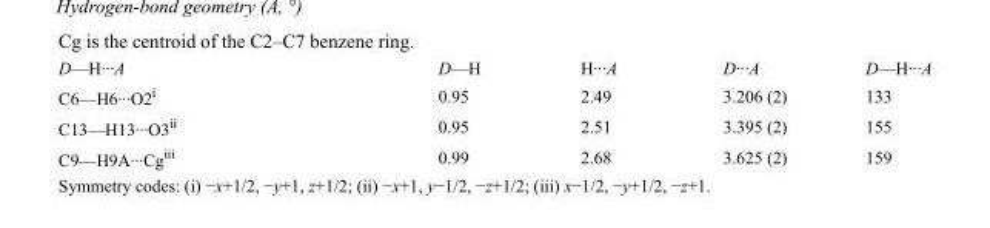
<table><tbody><tr><td>D—H···A</td><td>D—H</td><td>H···A</td><td>D···A</td><td>D—H···A</td></tr><tr><td>C6—H6···O2<sup>i</sup></td><td>0.95</td><td>2.49</td><td>3.206 (2)</td><td>133</td></tr><tr><td>C13—H13···O3<sup>ii</sup></td><td>0.95</td><td>2.51</td><td>3.395 (2)</td><td>155</td></tr><tr><td>C9—H9A···Cg<sup>iii</sup></td><td>0.99</td><td>2.68</td><td>3.625 (2)</td><td>159</td></tr></tbody></table>